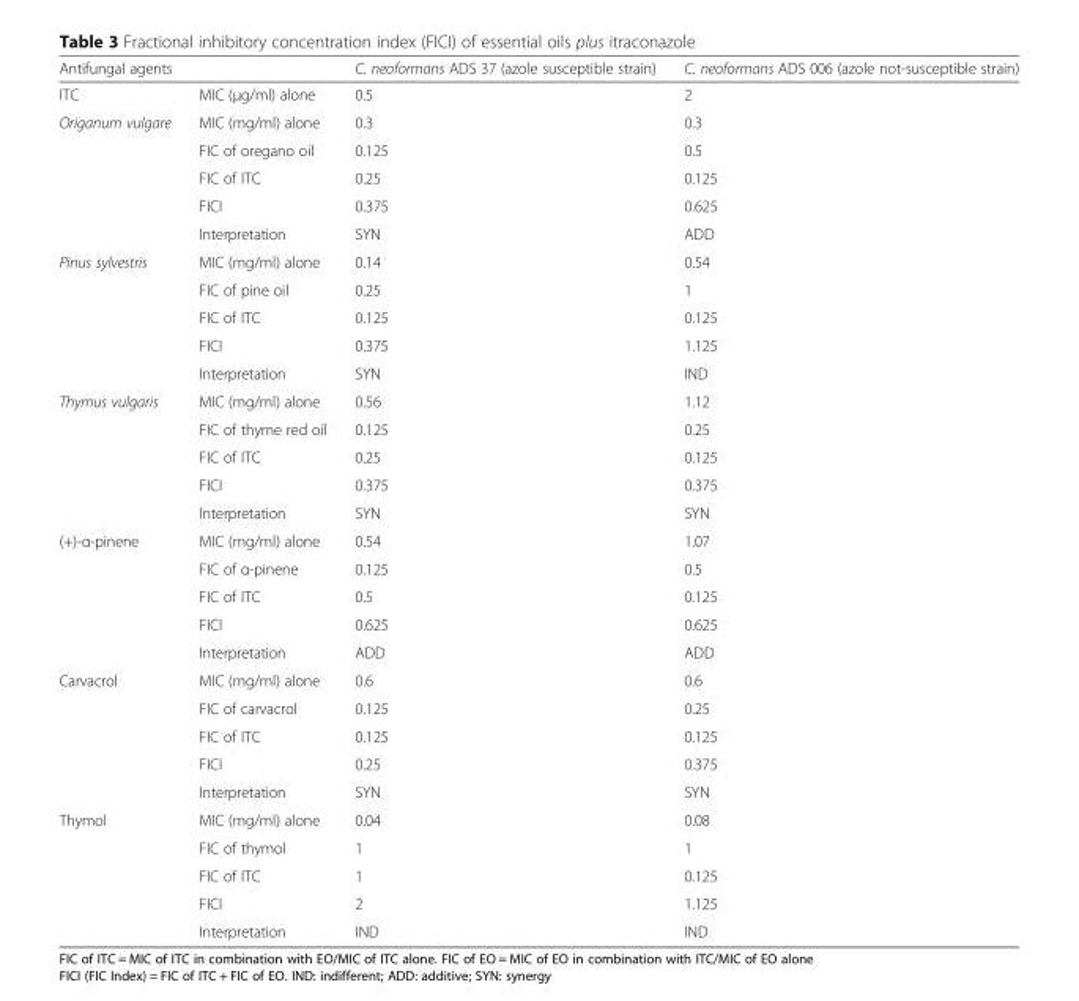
<table><thead><tr><td colspan="2">Antifungal agents</td><td rowspan="2">C. neoformans ADS 37 (azole susceptible strain) 0.5</td><td rowspan="2">C. neoformans ADS 006 (azole not-susceptible strain) 2</td></tr><tr><td>ITC</td><td>MIC (μg/ml) alone</td></tr></thead><tbody><tr><td rowspan="5">Origanum vulgare</td><td>MIC (mg/ml) alone</td><td>0.3</td><td>0.3</td></tr><tr><td>FIC of oregano oil</td><td>0.125</td><td>0.5</td></tr><tr><td>FIC of ITC</td><td>0.25</td><td>0.125</td></tr><tr><td>FICI</td><td>0.375</td><td>0.625</td></tr><tr><td>Interpretation</td><td>SYN</td><td>ADD</td></tr><tr><td rowspan="5">Pinus sylvestris</td><td>MIC (mg/ml) alone</td><td>0.14</td><td>0.54</td></tr><tr><td>FIC of pine oil</td><td>0.25</td><td>1</td></tr><tr><td>FIC of ITC</td><td>0.125</td><td>0.125</td></tr><tr><td>FICI</td><td>0.375</td><td>1.125</td></tr><tr><td>Interpretation</td><td>SYN</td><td>IND</td></tr><tr><td rowspan="5">Thymus vulgaris</td><td>MIC (mg/ml) alone</td><td>0.56</td><td>1.12</td></tr><tr><td>FIC of thyme red oil</td><td>0.125</td><td>0.25</td></tr><tr><td>FIC of ITC</td><td>0.25</td><td>0.125</td></tr><tr><td>FICI</td><td>0.375</td><td>0.375</td></tr><tr><td>Interpretation</td><td>SYN</td><td>SYN</td></tr><tr><td rowspan="5">(+)-α-pinene</td><td>MIC (mg/ml) alone</td><td>0.54</td><td>1.07</td></tr><tr><td>FIC of α-pinene</td><td>0.125</td><td>0.5</td></tr><tr><td>FIC of ITC</td><td>0.5</td><td>0.125</td></tr><tr><td>FICI</td><td>0.625</td><td>0.625</td></tr><tr><td>Interpretation</td><td>ADD</td><td>ADD</td></tr><tr><td rowspan="5">Carvacrol</td><td>MIC (mg/ml) alone</td><td>0.6</td><td>0.6</td></tr><tr><td>FIC of carvacrol</td><td>0.125</td><td>0.25</td></tr><tr><td>FIC of ITC</td><td>0.125</td><td>0.125</td></tr><tr><td>FICI</td><td>0.25</td><td>0.375</td></tr><tr><td>Interpretation</td><td>SYN</td><td>SYN</td></tr><tr><td rowspan="5">Thymol</td><td>MIC (mg/ml) alone</td><td>0.04</td><td>0.08</td></tr><tr><td>FIC of thymol</td><td>1</td><td>1</td></tr><tr><td>FIC of ITC</td><td>1</td><td>0.125</td></tr><tr><td>FICI</td><td>2</td><td>1.125</td></tr><tr><td>Interpretation</td><td>IND</td><td>IND</td></tr></tbody></table>